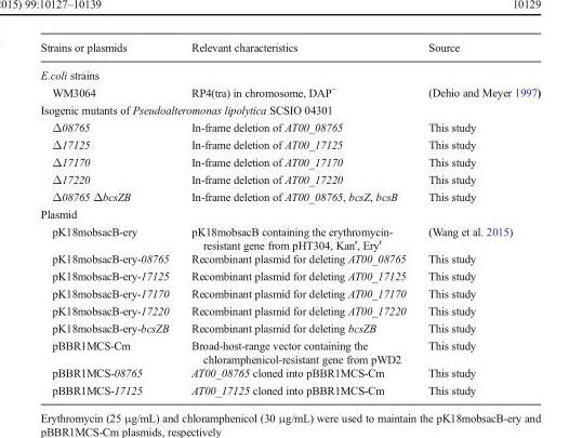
<table><thead><tr><td>Strains or plasmids</td><td>Relevant characteristics</td><td>Source</td></tr></thead><tbody><tr><td colspan="3">E.coli strains</td></tr><tr><td>WM3064</td><td>RP4(tra) in chromosome, DAP<sup>−</sup></td><td>(Dehio and Meyer 1997)</td></tr><tr><td colspan="3">Isogenic mutants of Pseudoalteromonas lipolytica SCSIO 04301</td></tr><tr><td>Δ08765</td><td>In-frame deletion of AT00_08765</td><td>This study</td></tr><tr><td>Δ17125</td><td>In-frame deletion of AT00_17125</td><td>This study</td></tr><tr><td>Δ17170</td><td>In-frame deletion of AT00_17170</td><td>This study</td></tr><tr><td>Δ17220</td><td>In-frame deletion of AT00_17220</td><td>This study</td></tr><tr><td>Δ08765 ΔbcsZB</td><td>In-frame deletion of AT00_08765, bcsZ, bcsB</td><td>This study</td></tr><tr><td colspan="3">Plasmid</td></tr><tr><td>pK18mobsacB-ery</td><td>pK18mobsacB containing the erythromycin- resistant gene from pHT304, Kan<sup>r</sup>, Ery<sup>r</sup></td><td>(Wang et al. 2015)</td></tr><tr><td>pK18mobsacB-ery-08765</td><td>Recombinant plasmid for deleting AT00_08765</td><td>This study</td></tr><tr><td>pK18mobsacB-ery-17125</td><td>Recombinant plasmid for deleting AT00_17125</td><td>This study</td></tr><tr><td>pK18mobsacB-ery-17170</td><td>Recombinant plasmid for deleting AT00_17170</td><td>This study</td></tr><tr><td>pK18mobsacB-ery-17220</td><td>Recombinant plasmid for deleting AT00_17220</td><td>This study</td></tr><tr><td>pK18mobsacB-ery-bcsZB</td><td>Recombinant plasmid for deleting bcsZB</td><td>This study</td></tr><tr><td>pBBR1MCS-Cm</td><td>Broad-host-range vector containing the chloramphenicol-resistant gene from pWD2</td><td>This study</td></tr><tr><td>pBBR1MCS-08765</td><td>AT00_08765 cloned into pBBR1MCS-Cm</td><td>This study</td></tr><tr><td>pBBR1MCS-17125</td><td>AT00_17125 cloned into pBBR1MCS-Cm</td><td>This study</td></tr></tbody></table>